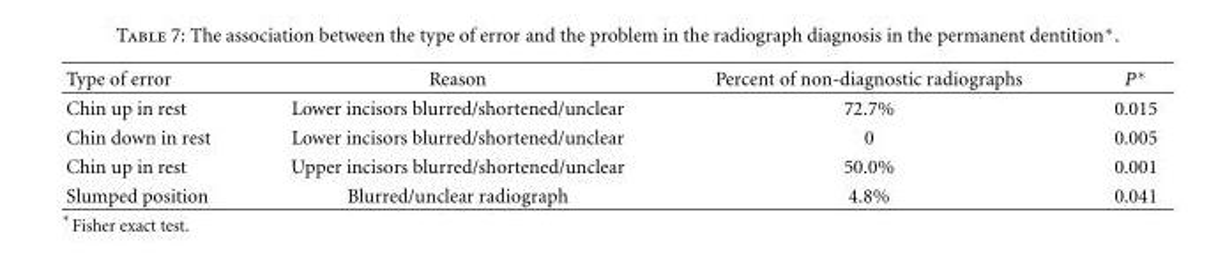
<table><thead><tr><td>Type of error</td><td>Reason</td><td>Percent of non-diagnostic radiographs</td><td>P∗</td></tr></thead><tbody><tr><td>Chin up in rest</td><td>Lower incisors blurred/shortened/unclear</td><td>72.7%</td><td>0.015</td></tr><tr><td>Chin down in rest</td><td>Lower incisors blurred/shortened/unclear</td><td>0</td><td>0.005</td></tr><tr><td>Chin up in rest</td><td>Upper incisors blurred/shortened/unclear</td><td>50.0%</td><td>0.001</td></tr><tr><td>Slumped position</td><td>Blurred/unclear radiograph</td><td>4.8%</td><td>0.041</td></tr></tbody></table>